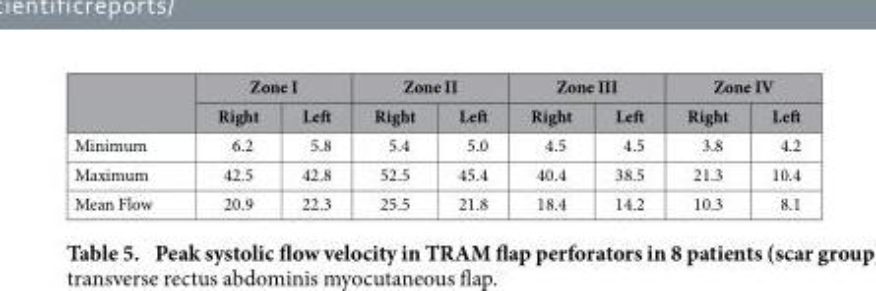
<table><thead><tr><td rowspan="2"></td><td colspan="2">Zone I</td><td colspan="2">Zone II</td><td colspan="2">Zone III</td><td colspan="2">Zone IV</td></tr><tr><td>Right</td><td>Left</td><td>Right</td><td>Left</td><td>Right</td><td>Left</td><td>Right</td><td>Left</td></tr></thead><tbody><tr><td>Minimum</td><td>6.2</td><td>5.8</td><td>5.4</td><td>5.0</td><td>4.5</td><td>4.5</td><td>3.8</td><td>4.2</td></tr><tr><td>Maximum</td><td>42.5</td><td>42.8</td><td>52.5</td><td>45.4</td><td>40.4</td><td>38.5</td><td>21.3</td><td>10.4</td></tr><tr><td>Mean Flow</td><td>20.9</td><td>22.3</td><td>25.5</td><td>21.8</td><td>18.4</td><td>14.2</td><td>10.3</td><td>8.1</td></tr></tbody></table>